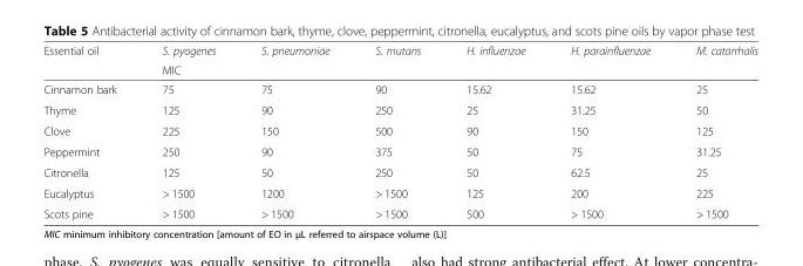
<table><thead><tr><td rowspan="2">Essential oil</td><td>S. pyogenes</td><td>S. pneumoniae</td><td>S. mutans</td><td>H. influenzae</td><td>H. parainfluenzae</td><td>M. catarrhalis</td></tr><tr><td colspan="6">MIC</td></tr></thead><tbody><tr><td>Cinnamon bark</td><td>75</td><td>75</td><td>90</td><td>15.62</td><td>15.62</td><td>25</td></tr><tr><td>Thyme</td><td>125</td><td>90</td><td>250</td><td>25</td><td>31.25</td><td>50</td></tr><tr><td>Clove</td><td>225</td><td>150</td><td>500</td><td>90</td><td>150</td><td>125</td></tr><tr><td>Peppermint</td><td>250</td><td>90</td><td>375</td><td>50</td><td>75</td><td>31.25</td></tr><tr><td>Citronella</td><td>125</td><td>50</td><td>250</td><td>50</td><td>62.5</td><td>25</td></tr><tr><td>Eucalyptus</td><td>&gt; 1500</td><td>1200</td><td>&gt; 1500</td><td>125</td><td>200</td><td>225</td></tr><tr><td>Scots pine</td><td>&gt; 1500</td><td>&gt; 1500</td><td>&gt; 1500</td><td>500</td><td>&gt; 1500</td><td>&gt; 1500</td></tr></tbody></table>